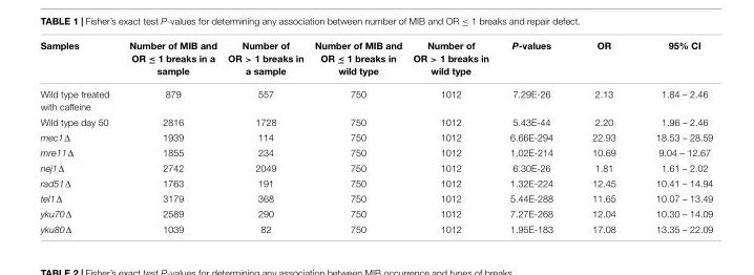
<table><thead><tr><td>Samples</td><td>Number of MIB and OR ≤ 1 breaks in a sample</td><td>Number of OR &gt; 1 breaks in a sample</td><td>Number of MIB and OR ≤ 1 breaks in wild type</td><td>Number of OR &gt; 1 breaks in wild type</td><td>P-values</td><td>OR</td><td>95% CI</td></tr></thead><tbody><tr><td>Wild type treated with caffeine</td><td>879</td><td>557</td><td>750</td><td>1012</td><td>7.29E-26</td><td>2.13</td><td>1.84 – 2.46</td></tr><tr><td>Wild type day 50</td><td>2816</td><td>1728</td><td>750</td><td>1012</td><td>5.43E-44</td><td>2.20</td><td>1.96 – 2.46</td></tr><tr><td>mec1Δ</td><td>1939</td><td>114</td><td>750</td><td>1012</td><td>6.66E-294</td><td>22.93</td><td>18.53 – 28.59</td></tr><tr><td>mre11Δ</td><td>1855</td><td>234</td><td>750</td><td>1012</td><td>1.02E-214</td><td>10.69</td><td>9.04 – 12.67</td></tr><tr><td>nej1Δ</td><td>2742</td><td>2049</td><td>750</td><td>1012</td><td>6.30E-26</td><td>1.81</td><td>1.61 – 2.02</td></tr><tr><td>rad51Δ</td><td>1763</td><td>191</td><td>750</td><td>1012</td><td>1.32E-224</td><td>12.45</td><td>10.41 – 14.94</td></tr><tr><td>tel1Δ</td><td>3179</td><td>368</td><td>750</td><td>1012</td><td>5.44E-288</td><td>11.65</td><td>10.07 – 13.49</td></tr><tr><td>yku70Δ</td><td>2589</td><td>290</td><td>750</td><td>1012</td><td>7.27E-268</td><td>12.04</td><td>10.30 – 14.09</td></tr><tr><td>yku80Δ</td><td>1039</td><td>82</td><td>750</td><td>1012</td><td>1.95E-183</td><td>17.08</td><td>13.35 – 22.09</td></tr></tbody></table>